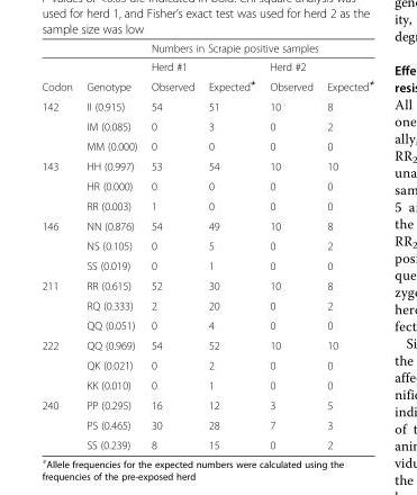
<table><thead><tr><td rowspan="3">Codon</td><td rowspan="3">Genotype</td><td colspan="4">Numbers in Scrapie positive samples</td></tr><tr><td colspan="2">Herd #1</td><td colspan="2">Herd #2</td></tr><tr><td>Observed</td><td>Expected<sup>≠</sup></td><td>Observed</td><td>Expected<sup>≠</sup></td></tr></thead><tbody><tr><td rowspan="3">142</td><td>II (0.915)</td><td>54</td><td>51</td><td>10</td><td>8</td></tr><tr><td>IM (0.085)</td><td>0</td><td>3</td><td>0</td><td>2</td></tr><tr><td>MM (0.000)</td><td>0</td><td>0</td><td>0</td><td>0</td></tr><tr><td rowspan="3">143</td><td>HH (0.997)</td><td>53</td><td>54</td><td>10</td><td>10</td></tr><tr><td>HR (0.000)</td><td>0</td><td>0</td><td>0</td><td>0</td></tr><tr><td>RR (0.003)</td><td>1</td><td>0</td><td>0</td><td>0</td></tr><tr><td rowspan="3">146</td><td>NN (0.876)</td><td>54</td><td>49</td><td>10</td><td>8</td></tr><tr><td>NS (0.105)</td><td>0</td><td>5</td><td>0</td><td>2</td></tr><tr><td>SS (0.019)</td><td>0</td><td>1</td><td>0</td><td>0</td></tr><tr><td rowspan="3">211</td><td>RR (0.615)</td><td>52</td><td>30</td><td>10</td><td>8</td></tr><tr><td>RQ (0.333)</td><td>2</td><td>20</td><td>0</td><td>2</td></tr><tr><td>QQ (0.051)</td><td>0</td><td>4</td><td>0</td><td>0</td></tr><tr><td rowspan="3">222</td><td>QQ (0.969)</td><td>54</td><td>52</td><td>10</td><td>10</td></tr><tr><td>QK (0.021)</td><td>0</td><td>2</td><td>0</td><td>0</td></tr><tr><td>KK (0.010)</td><td>0</td><td>1</td><td>0</td><td>0</td></tr><tr><td rowspan="3">240</td><td>PP (0.295)</td><td>16</td><td>12</td><td>3</td><td>5</td></tr><tr><td>PS (0.465)</td><td>30</td><td>28</td><td>7</td><td>3</td></tr><tr><td>SS (0.239)</td><td>8</td><td>15</td><td>0</td><td>2</td></tr></tbody></table>